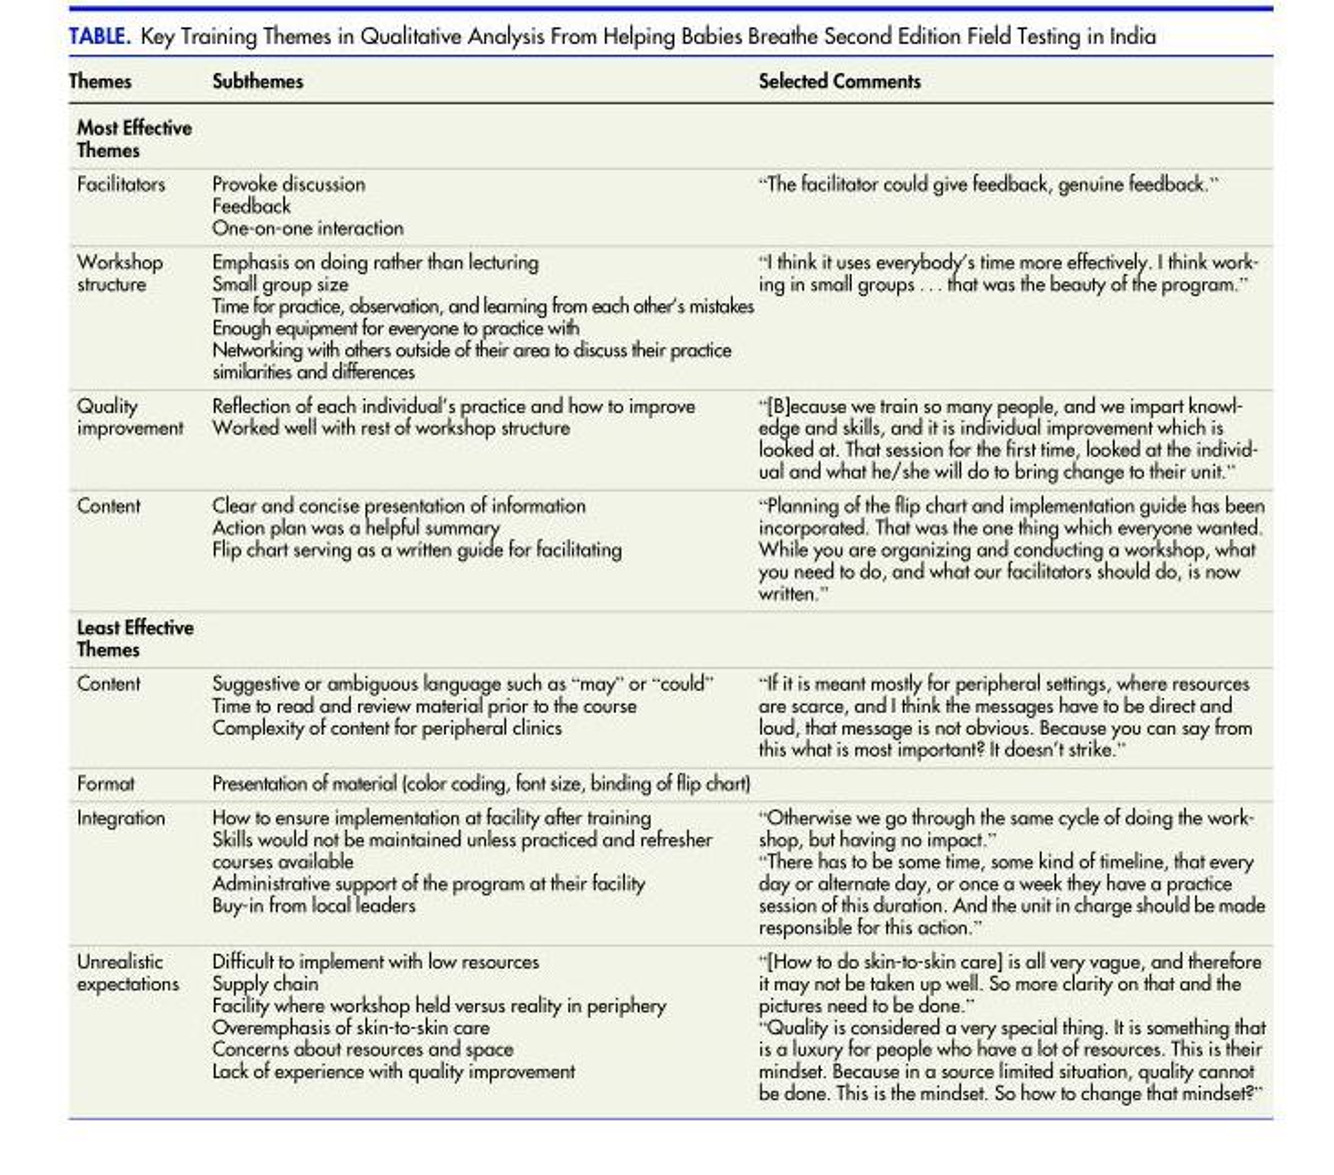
<table><thead><tr><td>Themes</td><td>Subthemes</td><td>Selected Comments</td></tr></thead><tbody><tr><td colspan="3">Most Effective Themes</td></tr><tr><td>Facilitators</td><td>Provoke discussion Feedback One-on-one interaction</td><td>“The facilitator could give feedback, genuine feedback.”</td></tr><tr><td>Workshop structure</td><td>Emphasis on doing rather than lecturing Small group size Time for practice, observation, and learning from each other’s mistakes Enough equipment for everyone to practice with Networking with others outside of their area to discuss their practice similarities and differences</td><td>“I think it uses everybody’s time more effectively. I think work- ing in small groups . . . that was the beauty of the program.”</td></tr><tr><td>Quality improvement</td><td>Reflection of each individual’s practice and how to improve Worked well with rest of workshop structure</td><td>“[B]ecause we train so many people, and we impart knowl- edge and skills, and it is individual improvement which is looked at. That session for the first time, looked at the individ- ual and what he/she will do to bring change to their unit.”</td></tr><tr><td>Content</td><td>Clear and concise presentation of information Action plan was a helpful summary Flip chart serving as a written guide for facilitating</td><td>“Planning of the flip chart and implementation guide has been incorporated. That was the one thing which everyone wanted. While you are organizing and conducting a workshop, what you need to do, and what our facilitators should do, is now written.”</td></tr><tr><td colspan="3">Least Effective Themes</td></tr><tr><td>Content</td><td>Suggestive or ambiguous language such as “may” or “could” Time to read and review material prior to the course Complexity of content for peripheral clinics</td><td>“If it is meant mostly for peripheral settings, where resources are scarce, and I think the messages have to be direct and loud, that message is not obvious. Because you can say from this what is most important? It doesn’t strike.”</td></tr><tr><td>Format</td><td>Presentation of material (color coding, font size, binding of flip chart)</td><td></td></tr><tr><td>Integration</td><td>How to ensure implementation at facility after training Skills would not be maintained unless practiced and refresher courses available Administrative support of the program at their facility Buy-in from local leaders</td><td>“Otherwise we go through the same cycle of doing the work- shop, but having no impact.” “There has to be some time, some kind of timeline, that every day or alternate day, or once a week they have a practice session of this duration. And the unit in charge should be made responsible for this action.”</td></tr><tr><td>Unrealistic expectations</td><td>Difficult to implement with low resources Supply chain Facility where workshop held versus reality in periphery Overemphasis of skin-to-skin care Concerns about resources and space Lack of experience with quality improvement</td><td>“[How to do skin-to-skin care] is all very vague, and therefore it may not be taken up well. So more clarity on that and the pictures need to be done.” “Quality is considered a very special thing. It is something that is a luxury for people who have a lot of resources. This is their mindset. Because in a source limited situation, quality cannot be done. This is the mindset. So how to change that mindset?”</td></tr></tbody></table>